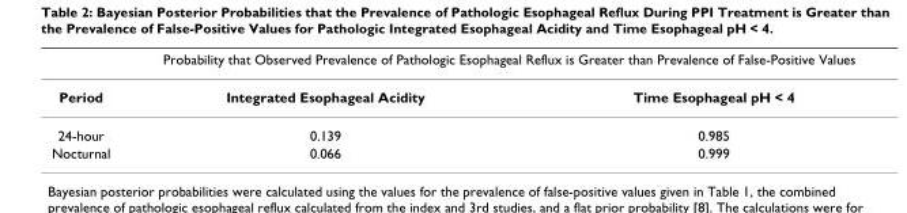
<table><thead><tr><td rowspan="2">Period</td><td colspan="2">Probability that Observed Prevalence of Pathologic Esophageal Reflux is Greater than Prevalence of False-Positive Values</td></tr><tr><td>Integrated Esophageal Acidity</td><td>Time Esophageal pH &lt; 4</td></tr></thead><tbody><tr><td>24-hour</td><td>0.139</td><td>0.985</td></tr><tr><td>Nocturnal</td><td>0.066</td><td>0.999</td></tr></tbody></table>